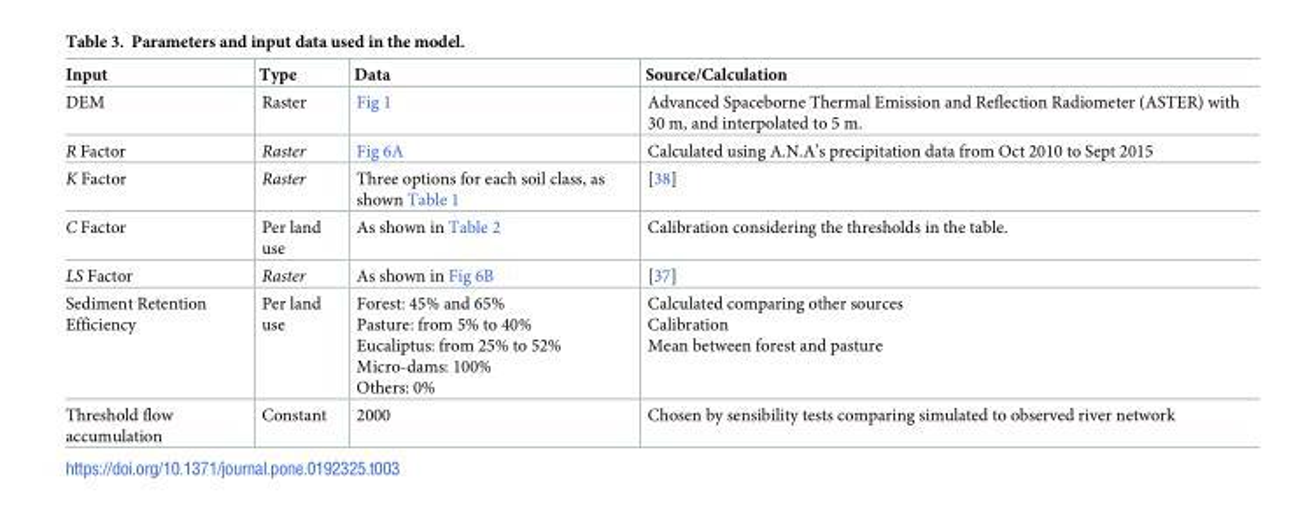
<table><thead><tr><td>Input</td><td>Type</td><td>Data</td><td>Source/Calculation</td></tr></thead><tbody><tr><td>DEM</td><td>Raster</td><td>Fig 1</td><td>Advanced Spaceborne Thermal Emission and Reflection Radiometer (ASTER) with 30 m, and interpolated to 5 m.</td></tr><tr><td>R Factor</td><td>Raster</td><td>Fig 6A</td><td>Calculated using A.N.A’s precipitation data from Oct 2010 to Sept 2015</td></tr><tr><td>K Factor</td><td>Raster</td><td>Three options for each soil class, as shown Table 1</td><td>[38]</td></tr><tr><td>C Factor</td><td>Per land use</td><td>As shown in Table 2</td><td>Calibration considering the thresholds in the table.</td></tr><tr><td>LS Factor</td><td>Raster</td><td>As shown in Fig 6B</td><td>[37]</td></tr><tr><td>Sediment Retention Efficiency</td><td>Per land use</td><td>Forest: 45% and 65% Pasture: from 5% to 40% Eucaliptus: from 25% to 52% Micro-dams: 100% Others: 0%</td><td>Calculated comparing other sources Calibration Mean between forest and pasture</td></tr><tr><td>Threshold flow accumulation</td><td>Constant</td><td>2000</td><td>Chosen by sensibility tests comparing simulated to observed river network</td></tr></tbody></table>